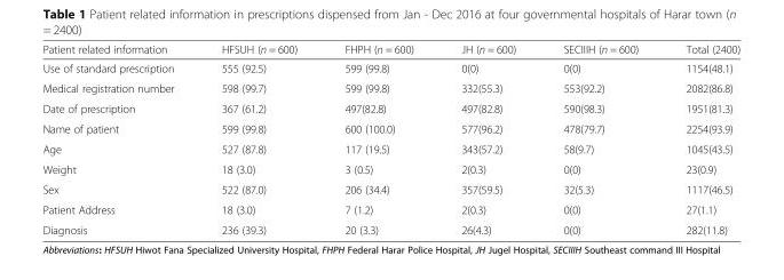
<table><thead><tr><td>Patient related information</td><td>HFSUH (n = 600)</td><td>FHPH (n = 600)</td><td>JH (n = 600)</td><td>SECIIIH (n = 600)</td><td>Total (2400)</td></tr></thead><tbody><tr><td>Use of standard prescription</td><td>555 (92.5)</td><td>599 (99.8)</td><td>0(0)</td><td>0(0)</td><td>1154(48.1)</td></tr><tr><td>Medical registration number</td><td>598 (99.7)</td><td>599 (99.8)</td><td>332(55.3)</td><td>553(92.2)</td><td>2082(86.8)</td></tr><tr><td>Date of prescription</td><td>367 (61.2)</td><td>497(82.8)</td><td>497(82.8)</td><td>590(98.3)</td><td>1951(81.3)</td></tr><tr><td>Name of patient</td><td>599 (99.8)</td><td>600 (100.0)</td><td>577(96.2)</td><td>478(79.7)</td><td>2254(93.9)</td></tr><tr><td>Age</td><td>527 (87.8)</td><td>117 (19.5)</td><td>343(57.2)</td><td>58(9.7)</td><td>1045(43.5)</td></tr><tr><td>Weight</td><td>18 (3.0)</td><td>3 (0.5)</td><td>2(0.3)</td><td>0(0)</td><td>23(0.9)</td></tr><tr><td>Sex</td><td>522 (87.0)</td><td>206 (34.4)</td><td>357(59.5)</td><td>32(5.3)</td><td>1117(46.5)</td></tr><tr><td>Patient Address</td><td>18 (3.0)</td><td>7 (1.2)</td><td>2(0.3)</td><td>0(0)</td><td>27(1.1)</td></tr><tr><td>Diagnosis</td><td>236 (39.3)</td><td>20 (3.3)</td><td>26(4.3)</td><td>0(0)</td><td>282(11.8)</td></tr></tbody></table>